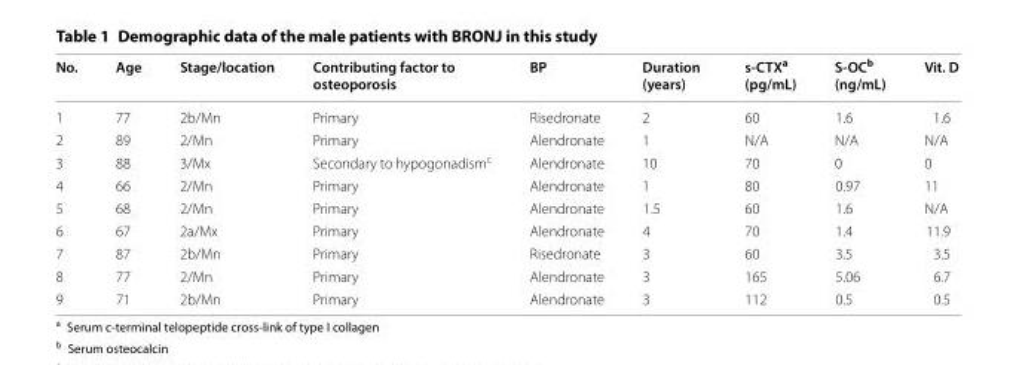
<table><thead><tr><td>No.</td><td>Age</td><td>Stage/location</td><td>Contributing factor to osteoporosis</td><td>BP</td><td>Duration (years)</td><td>s-CTX<sup>a</sup> (pg/mL)</td><td>S-OC<sup>b</sup> (ng/mL)</td><td>Vit. D</td></tr></thead><tbody><tr><td>1</td><td>77</td><td>2b/Mn</td><td>Primary</td><td>Risedronate</td><td>2</td><td>60</td><td>1.6</td><td>1.6</td></tr><tr><td>2</td><td>89</td><td>2/Mn</td><td>Primary</td><td>Alendronate</td><td>1</td><td>N/A</td><td>N/A</td><td>N/A</td></tr><tr><td>3</td><td>88</td><td>3/Mx</td><td>Secondary to hypogonadism<sup>c</sup></td><td>Alendronate</td><td>10</td><td>70</td><td>0</td><td>0</td></tr><tr><td>4</td><td>66</td><td>2/Mn</td><td>Primary</td><td>Alendronate</td><td>1</td><td>80</td><td>0.97</td><td>11</td></tr><tr><td>5</td><td>68</td><td>2/Mn</td><td>Primary</td><td>Alendronate</td><td>1.5</td><td>60</td><td>1.6</td><td>N/A</td></tr><tr><td>6</td><td>67</td><td>2a/Mx</td><td>Primary</td><td>Alendronate</td><td>4</td><td>70</td><td>1.4</td><td>11.9</td></tr><tr><td>7</td><td>87</td><td>2b/Mn</td><td>Primary</td><td>Risedronate</td><td>3</td><td>60</td><td>3.5</td><td>3.5</td></tr><tr><td>8</td><td>77</td><td>2/Mn</td><td>Primary</td><td>Alendronate</td><td>3</td><td>165</td><td>5.06</td><td>6.7</td></tr><tr><td>9</td><td>71</td><td>2b/Mn</td><td>Primary</td><td>Alendronate</td><td>3</td><td>112</td><td>0.5</td><td>0.5</td></tr></tbody></table>